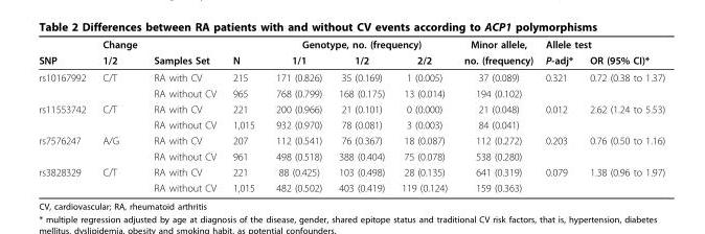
<table><thead><tr><td rowspan="2">SNP</td><td rowspan="2">Change 1/2</td><td rowspan="2">Samples Set</td><td rowspan="2">N</td><td colspan="3">Genotype, no. (frequency)</td><td rowspan="2">Minor allele, no. (frequency)</td><td colspan="2">Allele test</td></tr><tr><td>1/1</td><td>1/2</td><td>2/2</td><td>P-adj*</td><td>OR (95% CI)*</td></tr></thead><tbody><tr><td rowspan="2">rs10167992</td><td>C/T</td><td>RA with CV</td><td>215</td><td>171 (0.826)</td><td>35 (0.169)</td><td>1 (0.005)</td><td>37 (0.089)</td><td>0.321</td><td>0.72 (0.38 to 1.37)</td></tr><tr><td></td><td>RA without CV</td><td>965</td><td>768 (0.799)</td><td>168 (0.175)</td><td>13 (0.014)</td><td>194 (0.102)</td><td></td><td></td></tr><tr><td rowspan="2">rs11553742</td><td>C/T</td><td>RA with CV</td><td>221</td><td>200 (0.966)</td><td>21 (0.101)</td><td>0 (0.000)</td><td>21 (0.048)</td><td>0.012</td><td>2.62 (1.24 to 5.53)</td></tr><tr><td></td><td>RA without CV</td><td>1,015</td><td>932 (0.970)</td><td>78 (0.081)</td><td>3 (0.003)</td><td>84 (0.041)</td><td></td><td></td></tr><tr><td rowspan="2">rs7576247</td><td>A/G</td><td>RA with CV</td><td>207</td><td>112 (0.541)</td><td>76 (0.367)</td><td>18 (0.087)</td><td>112 (0.272)</td><td>0.203</td><td>0.76 (0.50 to 1.16)</td></tr><tr><td></td><td>RA without CV</td><td>961</td><td>498 (0.518)</td><td>388 (0.404)</td><td>75 (0.078)</td><td>538 (0.280)</td><td></td><td></td></tr><tr><td rowspan="2">rs3828329</td><td>C/T</td><td>RA with CV</td><td>221</td><td>88 (0.425)</td><td>103 (0.498)</td><td>28 (0.135)</td><td>641 (0.319)</td><td>0.079</td><td>1.38 (0.96 to 1.97)</td></tr><tr><td></td><td>RA without CV</td><td>1,015</td><td>482 (0.502)</td><td>403 (0.419)</td><td>119 (0.124)</td><td>159 (0.363)</td><td></td><td></td></tr></tbody></table>